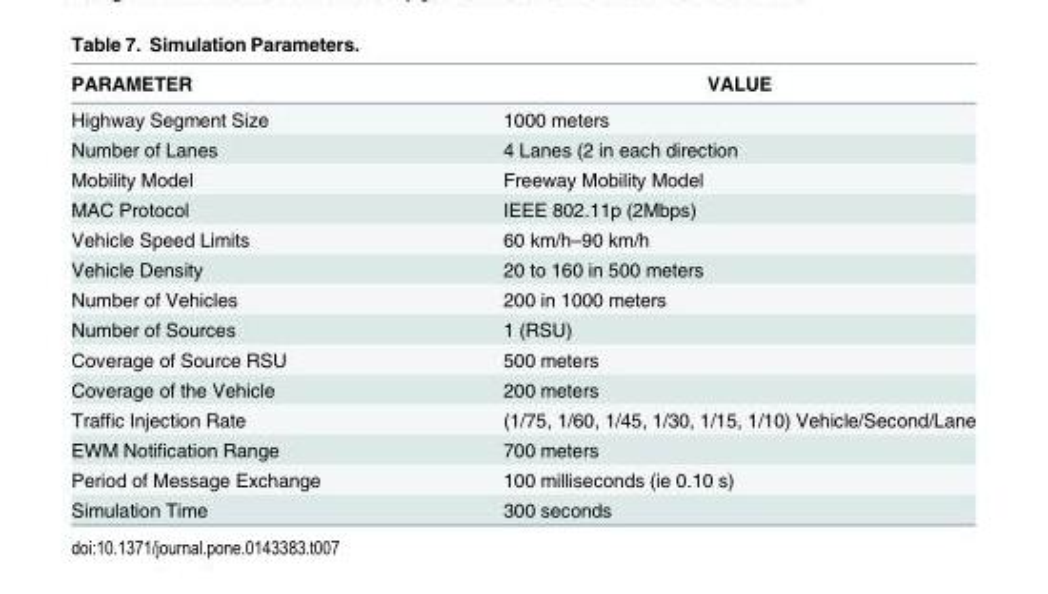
<table><thead><tr><td>PARAMETER</td><td>VALUE</td></tr></thead><tbody><tr><td>Highway Segment Size</td><td>1000 meters</td></tr><tr><td>Number of Lanes</td><td>4 Lanes (2 in each direction</td></tr><tr><td>Mobility Model</td><td>Freeway Mobility Model</td></tr><tr><td>MAC Protocol</td><td>IEEE 802.11p (2Mbps)</td></tr><tr><td>Vehicle Speed Limits</td><td>60 km/h–90 km/h</td></tr><tr><td>Vehicle Density</td><td>20 to 160 in 500 meters</td></tr><tr><td>Number of Vehicles</td><td>200 in 1000 meters</td></tr><tr><td>Number of Sources</td><td>1 (RSU)</td></tr><tr><td>Coverage of Source RSU</td><td>500 meters</td></tr><tr><td>Coverage of the Vehicle</td><td>200 meters</td></tr><tr><td>Traffic Injection Rate</td><td>(1/75, 1/60, 1/45, 1/30, 1/15, 1/10) Vehicle/Second/Lane</td></tr><tr><td>EWM Notification Range</td><td>700 meters</td></tr><tr><td>Period of Message Exchange</td><td>100 milliseconds (ie 0.10 s)</td></tr><tr><td>Simulation Time</td><td>300 seconds</td></tr></tbody></table>